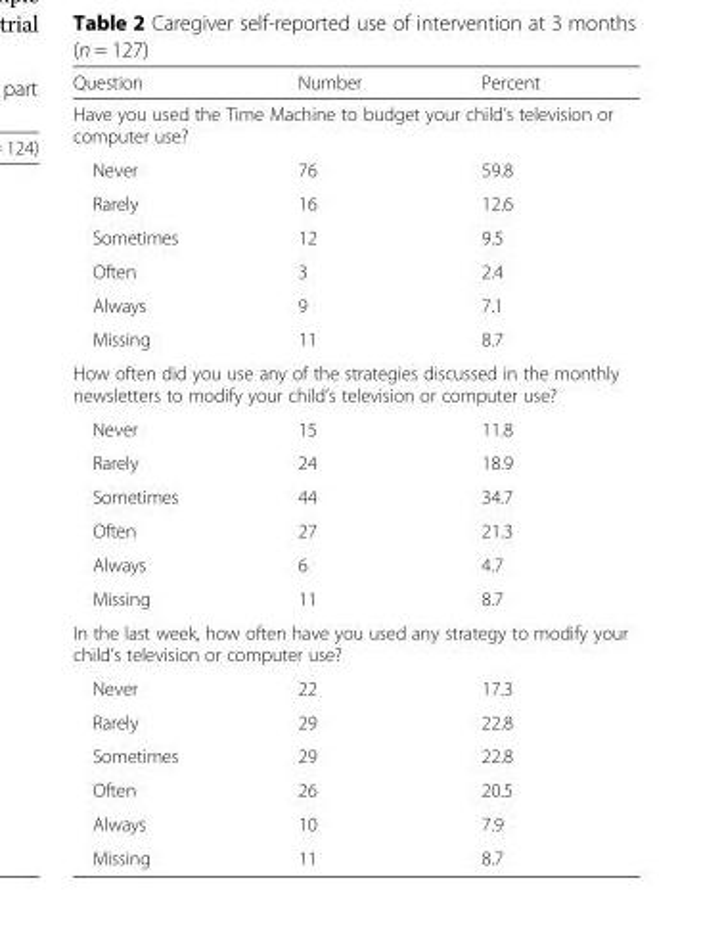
<table><thead><tr><td>Question</td><td>Number</td><td>Percent</td></tr></thead><tbody><tr><td colspan="3">Have you used the Time Machine to budget your child’s television or computer use?</td></tr><tr><td>Never</td><td>76</td><td>59.8</td></tr><tr><td>Rarely</td><td>16</td><td>12.6</td></tr><tr><td>Sometimes</td><td>12</td><td>9.5</td></tr><tr><td>Often</td><td>3</td><td>2.4</td></tr><tr><td>Always</td><td>9</td><td>7.1</td></tr><tr><td>Missing</td><td>11</td><td>8.7</td></tr><tr><td colspan="3">How often did you use any of the strategies discussed in the monthly newsletters to modify your child’s television or computer use?</td></tr><tr><td>Never</td><td>15</td><td>11.8</td></tr><tr><td>Rarely</td><td>24</td><td>18.9</td></tr><tr><td>Sometimes</td><td>44</td><td>34.7</td></tr><tr><td>Often</td><td>27</td><td>21.3</td></tr><tr><td>Always</td><td>6</td><td>4.7</td></tr><tr><td>Missing</td><td>11</td><td>8.7</td></tr><tr><td colspan="3">In the last week, how often have you used any strategy to modify your child’s television or computer use?</td></tr><tr><td>Never</td><td>22</td><td>17.3</td></tr><tr><td>Rarely</td><td>29</td><td>22.8</td></tr><tr><td>Sometimes</td><td>29</td><td>22.8</td></tr><tr><td>Often</td><td>26</td><td>20.5</td></tr><tr><td>Always</td><td>10</td><td>7.9</td></tr><tr><td>Missing</td><td>11</td><td>8.7</td></tr></tbody></table>